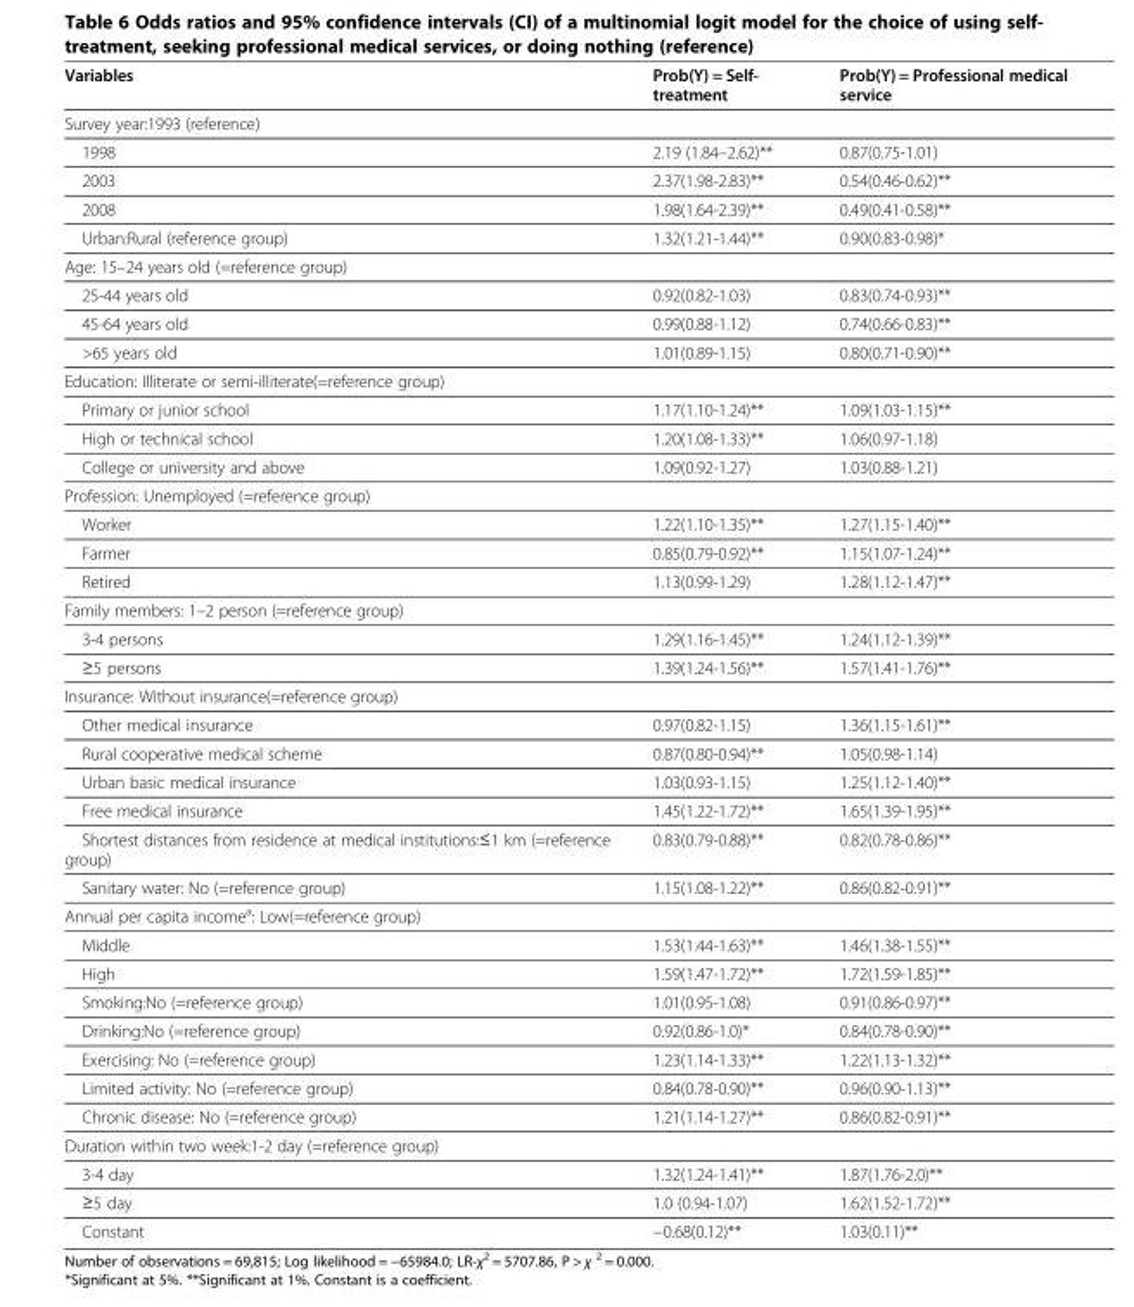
<table><thead><tr><td>Variables</td><td>Prob(Y) = Self- treatment</td><td>Prob(Y) = Professional medical service</td></tr></thead><tbody><tr><td colspan="3">Survey year:1993 (reference)</td></tr><tr><td>1998</td><td>2.19 (1.84–2.62)**</td><td>0.87(0.75-1.01)</td></tr><tr><td>2003</td><td>2.37(1.98-2.83)**</td><td>0.54(0.46-0.62)**</td></tr><tr><td>2008</td><td>1.98(1.64-2.39)**</td><td>0.49(0.41-0.58)**</td></tr><tr><td>Urban:Rural (reference group)</td><td>1.32(1.21-1.44)**</td><td>0.90(0.83-0.98)*</td></tr><tr><td colspan="3">Age: 15–24 years old (=reference group)</td></tr><tr><td>25-44 years old</td><td>0.92(0.82-1.03)</td><td>0.83(0.74-0.93)**</td></tr><tr><td>45-64 years old</td><td>0.99(0.88-1.12)</td><td>0.74(0.66-0.83)**</td></tr><tr><td>&gt;65 years old</td><td>1.01(0.89-1.15)</td><td>0.80(0.71-0.90)**</td></tr><tr><td colspan="3">Education: Illiterate or semi-illiterate(=reference group)</td></tr><tr><td>Primary or junior school</td><td>1.17(1.10-1.24)**</td><td>1.09(1.03-1.15)**</td></tr><tr><td>High or technical school</td><td>1.20(1.08-1.33)**</td><td>1.06(0.97-1.18)</td></tr><tr><td>College or university and above</td><td>1.09(0.92-1.27)</td><td>1.03(0.88-1.21)</td></tr><tr><td colspan="3">Profession: Unemployed (=reference group)</td></tr><tr><td>Worker</td><td>1.22(1.10-1.35)**</td><td>1.27(1.15-1.40)**</td></tr><tr><td>Farmer</td><td>0.85(0.79-0.92)**</td><td>1.15(1.07-1.24)**</td></tr><tr><td>Retired</td><td>1.13(0.99-1.29)</td><td>1.28(1.12-1.47)**</td></tr><tr><td colspan="3">Family members: 1–2 person (=reference group)</td></tr><tr><td>3-4 persons</td><td>1.29(1.16-1.45)**</td><td>1.24(1.12-1.39)**</td></tr><tr><td>≥5 persons</td><td>1.39(1.24-1.56)**</td><td>1.57(1.41-1.76)**</td></tr><tr><td colspan="3">Insurance: Without insurance(=reference group)</td></tr><tr><td>Other medical insurance</td><td>0.97(0.82-1.15)</td><td>1.36(1.15-1.61)**</td></tr><tr><td>Rural cooperative medical scheme</td><td>0.87(0.80-0.94)**</td><td>1.05(0.98-1.14)</td></tr><tr><td>Urban basic medical insurance</td><td>1.03(0.93-1.15)</td><td>1.25(1.12-1.40)**</td></tr><tr><td>Free medical insurance</td><td>1.45(1.22-1.72)**</td><td>1.65(1.39-1.95)**</td></tr><tr><td>Shortest distances from residence at medical institutions:≤1 km (=reference group)</td><td>0.83(0.79-0.88)**</td><td>0.82(0.78-0.86)**</td></tr><tr><td>Sanitary water: No (=reference group)</td><td>1.15(1.08-1.22)**</td><td>0.86(0.82-0.91)**</td></tr><tr><td colspan="3">Annual per capita income<sup>a</sup>: Low(=reference group)</td></tr><tr><td>Middle</td><td>1.53(1.44-1.63)**</td><td>1.46(1.38-1.55)**</td></tr><tr><td>High</td><td>1.59(1.47-1.72)**</td><td>1.72(1.59-1.85)**</td></tr><tr><td>Smoking:No (=reference group)</td><td>1.01(0.95-1.08)</td><td>0.91(0.86-0.97)**</td></tr><tr><td>Drinking:No (=reference group)</td><td>0.92(0.86-1.0)*</td><td>0.84(0.78-0.90)**</td></tr><tr><td>Exercising: No (=reference group)</td><td>1.23(1.14-1.33)**</td><td>1.22(1.13-1.32)**</td></tr><tr><td>Limited activity: No (=reference group)</td><td>0.84(0.78-0.90)**</td><td>0.96(0.90-1.13)**</td></tr><tr><td>Chronic disease: No (=reference group)</td><td>1.21(1.14-1.27)**</td><td>0.86(0.82-0.91)**</td></tr><tr><td colspan="3">Duration within two week:1-2 day (=reference group)</td></tr><tr><td>3-4 day</td><td>1.32(1.24-1.41)**</td><td>1.87(1.76-2.0)**</td></tr><tr><td>≥5 day</td><td>1.0 (0.94-1.07)</td><td>1.62(1.52-1.72)**</td></tr><tr><td>Constant</td><td>−0.68(0.12)**</td><td>1.03(0.11)**</td></tr></tbody></table>